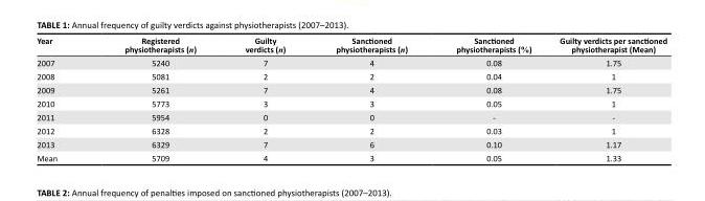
<table><thead><tr><td>Year</td><td>Registered physiotherapists (n)</td><td>Guilty verdicts (n)</td><td>Sanctioned physiotherapists (n)</td><td>Sanctioned physiotherapists (%)</td><td>Guilty verdicts per sanctioned physiotherapist (Mean)</td></tr></thead><tbody><tr><td>2007</td><td>5240</td><td>7</td><td>4</td><td>0.08</td><td>1.75</td></tr><tr><td>2008</td><td>5081</td><td>2</td><td>2</td><td>0.04</td><td>1</td></tr><tr><td>2009</td><td>5261</td><td>7</td><td>4</td><td>0.08</td><td>1.75</td></tr><tr><td>2010</td><td>5773</td><td>3</td><td>3</td><td>0.05</td><td>1</td></tr><tr><td>2011</td><td>5954</td><td>0</td><td>0</td><td>-</td><td>-</td></tr><tr><td>2012</td><td>6328</td><td>2</td><td>2</td><td>0.03</td><td>1</td></tr><tr><td>2013</td><td>6329</td><td>7</td><td>6</td><td>0.10</td><td>1.17</td></tr><tr><td>Mean</td><td>5709</td><td>4</td><td>3</td><td>0.05</td><td>1.33</td></tr></tbody></table>